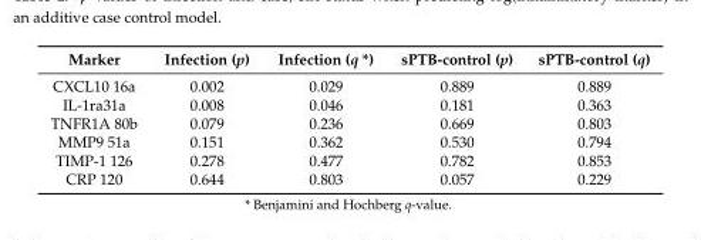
<table><thead><tr><td>Marker</td><td>Infection (p)</td><td>Infection (q *)</td><td>sPTB-control (p)</td><td>sPTB-control (q)</td></tr></thead><tbody><tr><td>CXCL10 16a</td><td>0.002</td><td>0.029</td><td>0.889</td><td>0.889</td></tr><tr><td>IL-1ra31a</td><td>0.008</td><td>0.046</td><td>0.181</td><td>0.363</td></tr><tr><td>TNFR1A 80b</td><td>0.079</td><td>0.236</td><td>0.669</td><td>0.803</td></tr><tr><td>MMP9 51a</td><td>0.151</td><td>0.362</td><td>0.530</td><td>0.794</td></tr><tr><td>TIMP-1 126</td><td>0.278</td><td>0.477</td><td>0.782</td><td>0.853</td></tr><tr><td>CRP 120</td><td>0.644</td><td>0.803</td><td>0.057</td><td>0.229</td></tr></tbody></table>